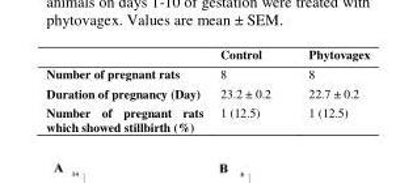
<table><thead><tr><td></td><td>Control</td><td>Phytovagex</td></tr></thead><tbody><tr><td>Number of pregnant rats</td><td>8</td><td>8</td></tr><tr><td>Duration of pregnancy (Day)</td><td>23.2 ± 0.2</td><td>22.7 ± 0.2</td></tr><tr><td>Number of pregnant rats which showed stillbirth (%)</td><td>1 (12.5)</td><td>1 (12.5)</td></tr></tbody></table>